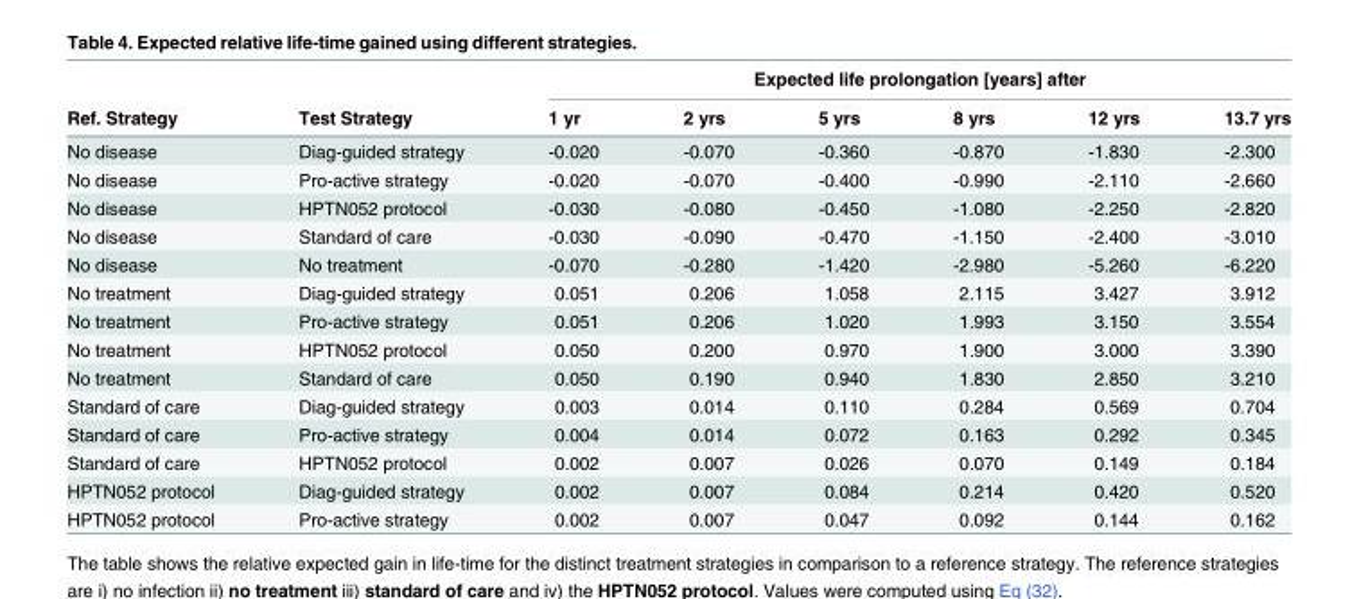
<table><thead><tr><td rowspan="2">Ref. Strategy</td><td rowspan="2">Test Strategy</td><td colspan="6">Expected life prolongation [years] after</td></tr><tr><td>1 yr</td><td>2 yrs</td><td>5 yrs</td><td>8 yrs</td><td>12 yrs</td><td>13.7 yrs</td></tr></thead><tbody><tr><td>No disease</td><td>Diag-guided strategy</td><td>-0.020</td><td>-0.070</td><td>-0.360</td><td>-0.870</td><td>-1.830</td><td>-2.300</td></tr><tr><td>No disease</td><td>Pro-active strategy</td><td>-0.020</td><td>-0.070</td><td>-0.400</td><td>-0.990</td><td>-2.110</td><td>-2.660</td></tr><tr><td>No disease</td><td>HPTN052 protocol</td><td>-0.030</td><td>-0.080</td><td>-0.450</td><td>-1.080</td><td>-2.250</td><td>-2.820</td></tr><tr><td>No disease</td><td>Standard of care</td><td>-0.030</td><td>-0.090</td><td>-0.470</td><td>-1.150</td><td>-2.400</td><td>-3.010</td></tr><tr><td>No disease</td><td>No treatment</td><td>-0.070</td><td>-0.280</td><td>-1.420</td><td>-2.980</td><td>-5.260</td><td>-6.220</td></tr><tr><td>No treatment</td><td>Diag-guided strategy</td><td>0.051</td><td>0.206</td><td>1.058</td><td>2.115</td><td>3.427</td><td>3.912</td></tr><tr><td>No treatment</td><td>Pro-active strategy</td><td>0.051</td><td>0.206</td><td>1.020</td><td>1.993</td><td>3.150</td><td>3.554</td></tr><tr><td>No treatment</td><td>HPTN052 protocol</td><td>0.050</td><td>0.200</td><td>0.970</td><td>1.900</td><td>3.000</td><td>3.390</td></tr><tr><td>No treatment</td><td>Standard of care</td><td>0.050</td><td>0.190</td><td>0.940</td><td>1.830</td><td>2.850</td><td>3.210</td></tr><tr><td>Standard of care</td><td>Diag-guided strategy</td><td>0.003</td><td>0.014</td><td>0.110</td><td>0.284</td><td>0.569</td><td>0.704</td></tr><tr><td>Standard of care</td><td>Pro-active strategy</td><td>0.004</td><td>0.014</td><td>0.072</td><td>0.163</td><td>0.292</td><td>0.345</td></tr><tr><td>Standard of care</td><td>HPTN052 protocol</td><td>0.002</td><td>0.007</td><td>0.026</td><td>0.070</td><td>0.149</td><td>0.184</td></tr><tr><td>HPTN052 protocol</td><td>Diag-guided strategy</td><td>0.002</td><td>0.007</td><td>0.084</td><td>0.214</td><td>0.420</td><td>0.520</td></tr><tr><td>HPTN052 protocol</td><td>Pro-active strategy</td><td>0.002</td><td>0.007</td><td>0.047</td><td>0.092</td><td>0.144</td><td>0.162</td></tr></tbody></table>